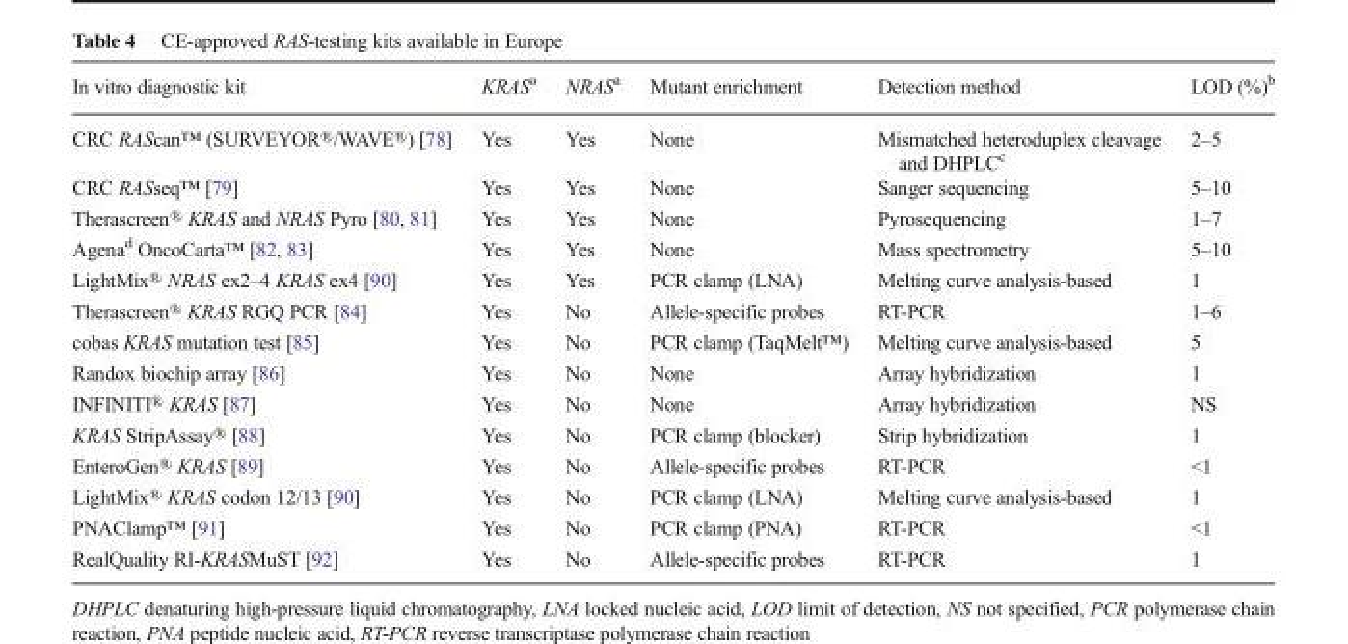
<table><thead><tr><td>In vitro diagnostic kit</td><td>KRAS<sup>a</sup></td><td>NRAS<sup>a</sup></td><td>Mutant enrichment</td><td>Detection method</td><td>LOD (%)<sup>b</sup></td></tr></thead><tbody><tr><td>CRC RAScan™ (SURVEYOR®/WAVE®) [78]</td><td>Yes</td><td>Yes</td><td>None</td><td>Mismatched heteroduplex cleavage and DHPLC<sup>c</sup></td><td>2–5</td></tr><tr><td>CRC RASseq™ [79]</td><td>Yes</td><td>Yes</td><td>None</td><td>Sanger sequencing</td><td>5–10</td></tr><tr><td>Therascreen® KRAS and NRAS Pyro [80, 81]</td><td>Yes</td><td>Yes</td><td>None</td><td>Pyrosequencing</td><td>1–7</td></tr><tr><td>Agena<sup>d</sup> OncoCarta™ [82, 83]</td><td>Yes</td><td>Yes</td><td>None</td><td>Mass spectrometry</td><td>5–10</td></tr><tr><td>LightMix® NRAS ex2–4 KRAS ex4 [90]</td><td>Yes</td><td>Yes</td><td>PCR clamp (LNA)</td><td>Melting curve analysis-based</td><td>1</td></tr><tr><td>Therascreen® KRAS RGQ PCR [84]</td><td>Yes</td><td>No</td><td>Allele-specific probes</td><td>RT-PCR</td><td>1–6</td></tr><tr><td>cobas KRAS mutation test [85]</td><td>Yes</td><td>No</td><td>PCR clamp (TaqMelt™)</td><td>Melting curve analysis-based</td><td>5</td></tr><tr><td>Randox biochip array [86]</td><td>Yes</td><td>No</td><td>None</td><td>Array hybridization</td><td>1</td></tr><tr><td>INFINITI® KRAS [87]</td><td>Yes</td><td>No</td><td>None</td><td>Array hybridization</td><td>NS</td></tr><tr><td>KRAS StripAssay® [88]</td><td>Yes</td><td>No</td><td>PCR clamp (blocker)</td><td>Strip hybridization</td><td>1</td></tr><tr><td>EnteroGen® KRAS [89]</td><td>Yes</td><td>No</td><td>Allele-specific probes</td><td>RT-PCR</td><td>&lt;1</td></tr><tr><td>LightMix® KRAS codon 12/13 [90]</td><td>Yes</td><td>No</td><td>PCR clamp (LNA)</td><td>Melting curve analysis-based</td><td>1</td></tr><tr><td>PNAClamp™ [91]</td><td>Yes</td><td>No</td><td>PCR clamp (PNA)</td><td>RT-PCR</td><td>&lt;1</td></tr><tr><td>RealQuality RI-KRASMuST [92]</td><td>Yes</td><td>No</td><td>Allele-specific probes</td><td>RT-PCR</td><td>1</td></tr></tbody></table>